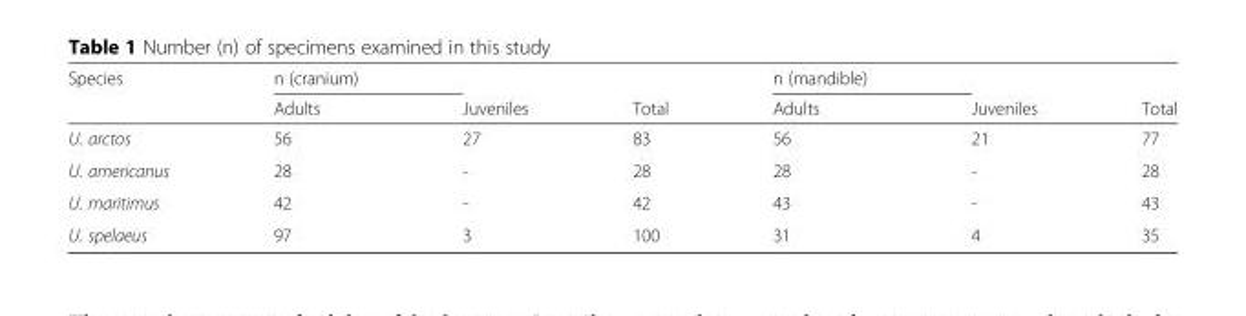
<table><thead><tr><td rowspan="2">Species</td><td rowspan="2">n (cranium) Adults</td><td rowspan="2">Juveniles</td><td rowspan="2">Total</td><td rowspan="2">n (mandible) Adults</td><td rowspan="2">Juveniles</td><td rowspan="2">Total</td></tr><tr></tr></thead><tbody><tr><td>U. arctos</td><td>56</td><td>27</td><td>83</td><td>56</td><td>21</td><td>77</td></tr><tr><td>U. americanus</td><td>28</td><td>-</td><td>28</td><td>28</td><td>-</td><td>28</td></tr><tr><td>U. maritimus</td><td>42</td><td>-</td><td>42</td><td>43</td><td>-</td><td>43</td></tr><tr><td>U. spelaeus</td><td>97</td><td>3</td><td>100</td><td>31</td><td>4</td><td>35</td></tr></tbody></table>